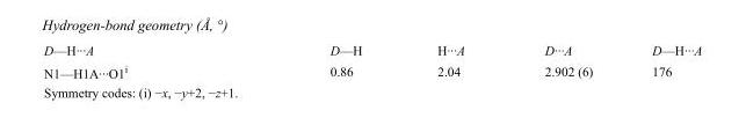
<table><tbody><tr><td>D—H···A</td><td>D—H</td><td>H···A</td><td>D···A</td><td>D—H···A</td></tr><tr><td>N1—H1A···O1<sup>i</sup></td><td>0.86</td><td>2.04</td><td>2.902 (6)</td><td>176</td></tr></tbody></table>